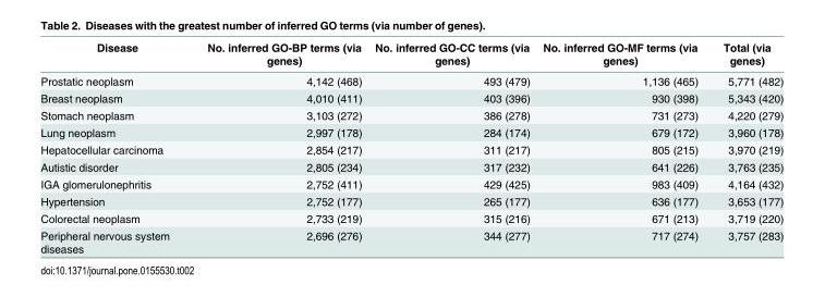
<table><thead><tr><td>Disease</td><td>No. inferred GO-BP terms (via genes)</td><td>No. inferred GO-CC terms (via genes)</td><td>No. inferred GO-MF terms (via genes)</td><td>Total (via genes)</td></tr></thead><tbody><tr><td>Prostatic neoplasm</td><td>4,142 (468)</td><td>493 (479)</td><td>1,136 (465)</td><td>5,771 (482)</td></tr><tr><td>Breast neoplasm</td><td>4,010 (411)</td><td>403 (396)</td><td>930 (398)</td><td>5,343 (420)</td></tr><tr><td>Stomach neoplasm</td><td>3,103 (272)</td><td>386 (278)</td><td>731 (273)</td><td>4,220 (279)</td></tr><tr><td>Lung neoplasm</td><td>2,997 (178)</td><td>284 (174)</td><td>679 (172)</td><td>3,960 (178)</td></tr><tr><td>Hepatocellular carcinoma</td><td>2,854 (217)</td><td>311 (217)</td><td>805 (215)</td><td>3,970 (219)</td></tr><tr><td>Autistic disorder</td><td>2,805 (234)</td><td>317 (232)</td><td>641 (226)</td><td>3,763 (235)</td></tr><tr><td>IGA glomerulonephritis</td><td>2,752 (411)</td><td>429 (425)</td><td>983 (409)</td><td>4,164 (432)</td></tr><tr><td>Hypertension</td><td>2,752 (177)</td><td>265 (177)</td><td>636 (177)</td><td>3,653 (177)</td></tr><tr><td>Colorectal neoplasm</td><td>2,733 (219)</td><td>315 (216)</td><td>671 (213)</td><td>3,719 (220)</td></tr><tr><td>Peripheral nervous system diseases</td><td>2,696 (276)</td><td>344 (277)</td><td>717 (274)</td><td>3,757 (283)</td></tr></tbody></table>